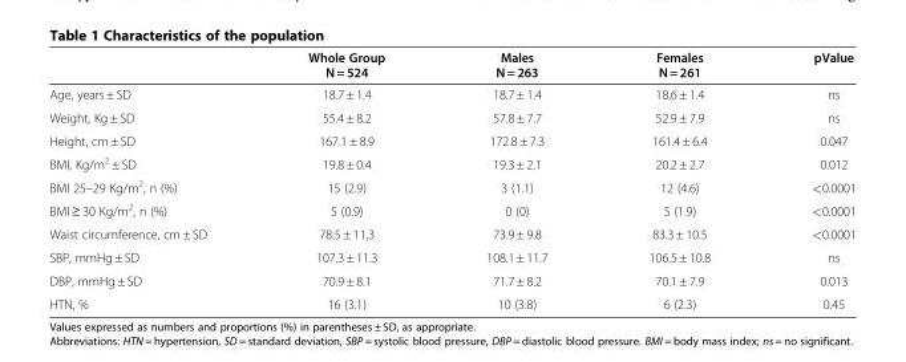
<table><thead><tr><td></td><td>Whole Group N = 524</td><td>Males N = 263</td><td>Females N = 261</td><td>pValue</td></tr></thead><tbody><tr><td>Age, years ± SD</td><td>18.7 ± 1.4</td><td>18.7 ± 1.4</td><td>18.6 ± 1.4</td><td>ns</td></tr><tr><td>Weight, Kg ± SD</td><td>55.4 ± 8.2</td><td>57.8 ± 7.7</td><td>52.9 ± 7.9</td><td>ns</td></tr><tr><td>Height, cm ± SD</td><td>167.1 ± 8.9</td><td>172.8 ± 7.3</td><td>161.4 ± 6.4</td><td>0.047</td></tr><tr><td>BMI, Kg/m<sup>2</sup> ± SD</td><td>19.8 ± 0.4</td><td>19.3 ± 2.1</td><td>20.2 ± 2.7</td><td>0.012</td></tr><tr><td>BMI 25–29 Kg/m<sup>2</sup>, n (%)</td><td>15 (2.9)</td><td>3 (1.1)</td><td>12 (4.6)</td><td>&lt;0.0001</td></tr><tr><td>BMI ≥ 30 Kg/m<sup>2</sup>, n (%)</td><td>5 (0.9)</td><td>0 (0)</td><td>5 (1.9)</td><td>&lt;0.0001</td></tr><tr><td>Waist circumference, cm ± SD</td><td>78.5 ± 11,3</td><td>73.9 ± 9.8</td><td>83.3 ± 10.5</td><td>&lt;0.0001</td></tr><tr><td>SBP, mmHg ± SD</td><td>107.3 ± 11.3</td><td>108.1 ± 11.7</td><td>106.5 ± 10.8</td><td>ns</td></tr><tr><td>DBP, mmHg ± SD</td><td>70.9 ± 8.1</td><td>71.7 ± 8.2</td><td>70.1 ± 7.9</td><td>0.013</td></tr><tr><td>HTN, %</td><td>16 (3.1)</td><td>10 (3.8)</td><td>6 (2.3)</td><td>0.45</td></tr></tbody></table>